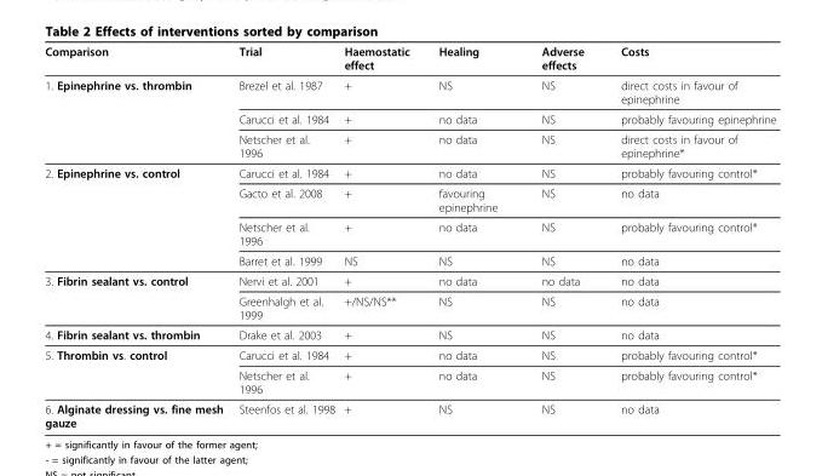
<table><thead><tr><td>Comparison</td><td>Trial</td><td>Haemostatic effect</td><td>Healing</td><td>Adverse effects</td><td>Costs</td></tr></thead><tbody><tr><td rowspan="3">1. Epinephrine vs. thrombin</td><td>Brezel et al. 1987</td><td>+</td><td>NS</td><td>NS</td><td>direct costs in favour of epinephrine</td></tr><tr><td>Carucci et al. 1984</td><td>+</td><td>no data</td><td>NS</td><td>probably favouring epinephrine</td></tr><tr><td>Netscher et al. 1996</td><td>+</td><td>no data</td><td>NS</td><td>direct costs in favour of epinephrine*</td></tr><tr><td rowspan="4">2. Epinephrine vs. control</td><td>Carucci et al. 1984</td><td>+</td><td>no data</td><td>NS</td><td>probably favouring control*</td></tr><tr><td>Gacto et al. 2008</td><td>+</td><td>favouring epinephrine</td><td>NS</td><td>no data</td></tr><tr><td>Netscher et al. 1996</td><td>+</td><td>no data</td><td>NS</td><td>probably favouring control*</td></tr><tr><td>Barret et al. 1999</td><td>NS</td><td>NS</td><td>NS</td><td>no data</td></tr><tr><td rowspan="2">3. Fibrin sealant vs. control</td><td>Nervi et al. 2001</td><td>+</td><td>no data</td><td>no data</td><td>no data</td></tr><tr><td>Greenhalgh et al. 1999</td><td>+/NS/NS**</td><td>NS</td><td>NS</td><td>no data</td></tr><tr><td>4. Fibrin sealant vs. thrombin</td><td>Drake et al. 2003</td><td>+</td><td>NS</td><td>NS</td><td>no data</td></tr><tr><td rowspan="2">5. Thrombin vs. control</td><td>Carucci et al. 1984</td><td>+</td><td>no data</td><td>NS</td><td>probably favouring control*</td></tr><tr><td>Netscher et al. 1996</td><td>+</td><td>no data</td><td>NS</td><td>probably favouring control*</td></tr><tr><td>6. Alginate dressing vs. fine mesh gauze</td><td>Steenfos et al. 1998</td><td>+</td><td>NS</td><td>NS</td><td>no data</td></tr></tbody></table>